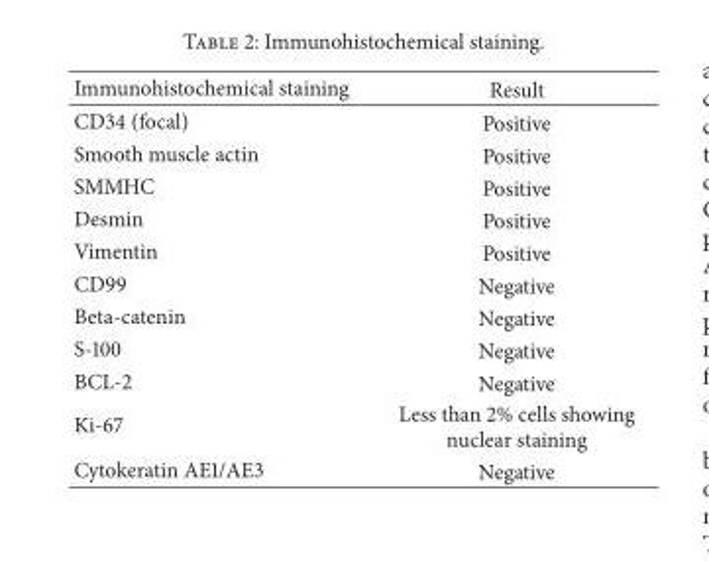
<table><thead><tr><td>Immunohistochemical staining</td><td>Result</td></tr></thead><tbody><tr><td>CD34 (focal)</td><td>Positive</td></tr><tr><td>Smooth muscle actin</td><td>Positive</td></tr><tr><td>SMMHC</td><td>Positive</td></tr><tr><td>Desmin</td><td>Positive</td></tr><tr><td>Vimentin</td><td>Positive</td></tr><tr><td>CD99</td><td>Negative</td></tr><tr><td>Beta-catenin</td><td>Negative</td></tr><tr><td>S-100</td><td>Negative</td></tr><tr><td>BCL-2</td><td>Negative</td></tr><tr><td>Ki-67</td><td>Less than 2% cells showing nuclear staining</td></tr><tr><td>Cytokeratin AE1/AE3</td><td>Negative</td></tr></tbody></table>